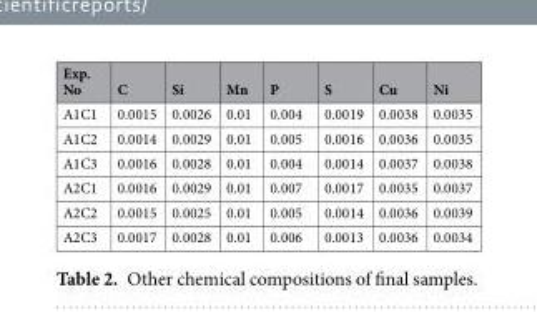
<table><thead><tr><td>Exp. No</td><td>C</td><td>Si</td><td>Mn</td><td>P</td><td>S</td><td>Cu</td><td>Ni</td></tr></thead><tbody><tr><td>A1C1</td><td>0.0015</td><td>0.0026</td><td>0.01</td><td>0.004</td><td>0.0019</td><td>0.0038</td><td>0.0035</td></tr><tr><td>A1C2</td><td>0.0014</td><td>0.0029</td><td>0.01</td><td>0.005</td><td>0.0016</td><td>0.0036</td><td>0.0035</td></tr><tr><td>A1C3</td><td>0.0016</td><td>0.0028</td><td>0.01</td><td>0.004</td><td>0.0014</td><td>0.0037</td><td>0.0038</td></tr><tr><td>A2C1</td><td>0.0016</td><td>0.0029</td><td>0.01</td><td>0.007</td><td>0.0017</td><td>0.0035</td><td>0.0037</td></tr><tr><td>A2C2</td><td>0.0015</td><td>0.0025</td><td>0.01</td><td>0.005</td><td>0.0014</td><td>0.0036</td><td>0.0039</td></tr><tr><td>A2C3</td><td>0.0017</td><td>0.0028</td><td>0.01</td><td>0.006</td><td>0.0013</td><td>0.0036</td><td>0.0034</td></tr></tbody></table>